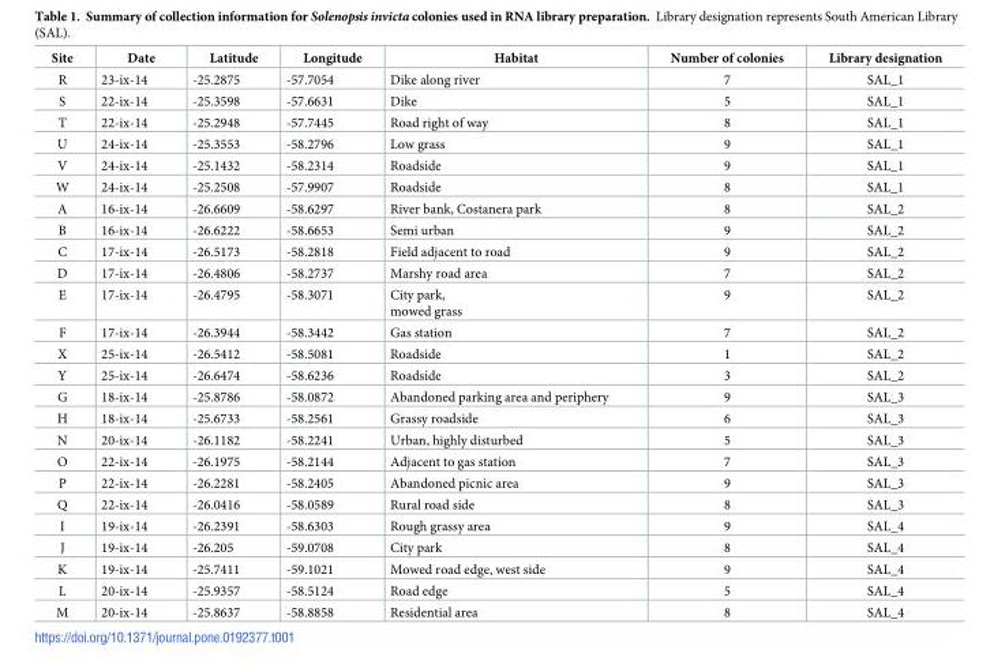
<table><thead><tr><td>Site</td><td>Date</td><td>Latitude</td><td>Longitude</td><td>Habitat</td><td>Number of colonies</td><td>Library designation</td></tr></thead><tbody><tr><td>R</td><td>23-ix-14</td><td>-25.2875</td><td>-57.7054</td><td>Dike along river</td><td>7</td><td>SAL_1</td></tr><tr><td>S</td><td>22-ix-14</td><td>-25.3598</td><td>-57.6631</td><td>Dike</td><td>5</td><td>SAL_1</td></tr><tr><td>T</td><td>22-ix-14</td><td>-25.2948</td><td>-57.7445</td><td>Road right of way</td><td>8</td><td>SAL_1</td></tr><tr><td>U</td><td>24-ix-14</td><td>-25.3553</td><td>-58.2796</td><td>Low grass</td><td>9</td><td>SAL_1</td></tr><tr><td>V</td><td>24-ix-14</td><td>-25.1432</td><td>-58.2314</td><td>Roadside</td><td>9</td><td>SAL_1</td></tr><tr><td>W</td><td>24-ix-14</td><td>-25.2508</td><td>-57.9907</td><td>Roadside</td><td>8</td><td>SAL_1</td></tr><tr><td>A</td><td>16-ix-14</td><td>-26.6609</td><td>-58.6297</td><td>River bank, Costanera park</td><td>8</td><td>SAL_2</td></tr><tr><td>B</td><td>16-ix-14</td><td>-26.6222</td><td>-58.6653</td><td>Semi urban</td><td>9</td><td>SAL_2</td></tr><tr><td>C</td><td>17-ix-14</td><td>-26.5173</td><td>-58.2818</td><td>Field adjacent to road</td><td>9</td><td>SAL_2</td></tr><tr><td>D</td><td>17-ix-14</td><td>-26.4806</td><td>-58.2737</td><td>Marshy road area</td><td>7</td><td>SAL_2</td></tr><tr><td>E</td><td>17-ix-14</td><td>-26.4795</td><td>-58.3071</td><td>City park, mowed grass</td><td>9</td><td>SAL_2</td></tr><tr><td>F</td><td>17-ix-14</td><td>-26.3944</td><td>-58.3442</td><td>Gas station</td><td>7</td><td>SAL_2</td></tr><tr><td>X</td><td>25-ix-14</td><td>-26.5412</td><td>-58.5081</td><td>Roadside</td><td>1</td><td>SAL_2</td></tr><tr><td>Y</td><td>25-ix-14</td><td>-26.6474</td><td>-58.6236</td><td>Roadside</td><td>3</td><td>SAL_2</td></tr><tr><td>G</td><td>18-ix-14</td><td>-25.8786</td><td>-58.0872</td><td>Abandoned parking area and periphery</td><td>9</td><td>SAL_3</td></tr><tr><td>H</td><td>18-ix-14</td><td>-25.6733</td><td>-58.2561</td><td>Grassy roadside</td><td>6</td><td>SAL_3</td></tr><tr><td>N</td><td>20-ix-14</td><td>-26.1182</td><td>-58.2241</td><td>Urban, highly disturbed</td><td>5</td><td>SAL_3</td></tr><tr><td>O</td><td>22-ix-14</td><td>-26.1975</td><td>-58.2144</td><td>Adjacent to gas station</td><td>7</td><td>SAL_3</td></tr><tr><td>P</td><td>22-ix-14</td><td>-26.2281</td><td>-58.2405</td><td>Abandoned picnic area</td><td>9</td><td>SAL_3</td></tr><tr><td>Q</td><td>22-ix-14</td><td>-26.0416</td><td>-58.0589</td><td>Rural road side</td><td>8</td><td>SAL_3</td></tr><tr><td>I</td><td>19-ix-14</td><td>-26.2391</td><td>-58.6303</td><td>Rough grassy area</td><td>9</td><td>SAL_4</td></tr><tr><td>J</td><td>19-ix-14</td><td>-26.205</td><td>-59.0708</td><td>City park</td><td>8</td><td>SAL_4</td></tr><tr><td>K</td><td>19-ix-14</td><td>-25.7411</td><td>-59.1021</td><td>Mowed road edge, west side</td><td>9</td><td>SAL_4</td></tr><tr><td>L</td><td>20-ix-14</td><td>-25.9357</td><td>-58.5124</td><td>Road edge</td><td>5</td><td>SAL_4</td></tr><tr><td>M</td><td>20-ix-14</td><td>-25.8637</td><td>-58.8858</td><td>Residential area</td><td>8</td><td>SAL_4</td></tr></tbody></table>